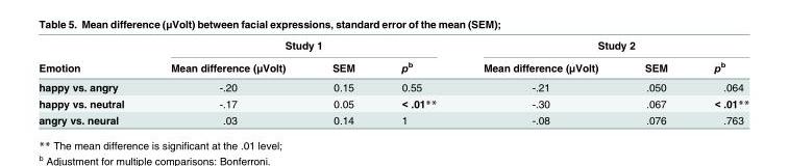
<table><thead><tr><td rowspan="2">Emotion</td><td colspan="3">Study 1</td><td colspan="3">Study 2</td></tr><tr><td>Mean difference (μVolt)</td><td>SEM</td><td>p<sup>b</sup></td><td>Mean difference (μVolt)</td><td>SEM</td><td>p<sup>b</sup></td></tr></thead><tbody><tr><td>happy vs. angry</td><td>-.20</td><td>0.15</td><td>0.55</td><td>-.21</td><td>.050</td><td>.064</td></tr><tr><td>happy vs. neutral</td><td>-.17</td><td>0.05</td><td>&lt; .01**</td><td>-.30</td><td>.067</td><td>&lt; .01**</td></tr><tr><td>angry vs. neural</td><td>.03</td><td>0.14</td><td>1</td><td>-.08</td><td>.076</td><td>.763</td></tr></tbody></table>